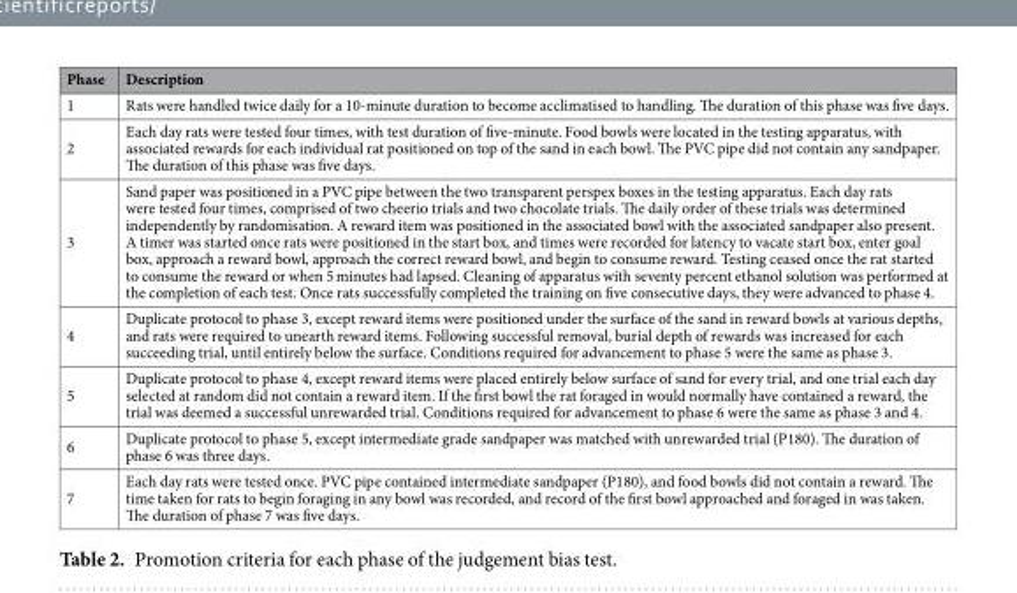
<table><thead><tr><td>Phase</td><td>Description</td></tr></thead><tbody><tr><td>1</td><td>Rats were handled twice daily for a 10-minute duration to become acclimatised to handling. The duration of this phase was five days.</td></tr><tr><td>2</td><td>Each day rats were tested four times, with test duration of five-minute. Food bowls were located in the testing apparatus, with associated rewards for each individual rat positioned on top of the sand in each bowl. The PVC pipe did not contain any sandpaper. The duration of this phase was five days.</td></tr><tr><td>3</td><td>Sand paper was positioned in a PVC pipe between the two transparent perspex boxes in the testing apparatus. Each day rats were tested four times, comprised of two cheerio trials and two chocolate trials. The daily order of these trials was determined independently by randomisation. A reward item was positioned in the associated bowl with the associated sandpaper also present. A timer was started once rats were positioned in the start box, and times were recorded for latency to vacate start box, enter goal box, approach a reward bowl, approach the correct reward bowl, and begin to consume reward. Testing ceased once the rat started to consume the reward or when 5 minutes had lapsed. Cleaning of apparatus with seventy percent ethanol solution was performed at the completion of each test. Once rats successfully completed the training on five consecutive days, they were advanced to phase 4.</td></tr><tr><td>4</td><td>Duplicate protocol to phase 3, except reward items were positioned under the surface of the sand in reward bowls at various depths, and rats were required to unearth reward items. Following successful removal, burial depth of rewards was increased for each succeeding trial, until entirely below the surface. Conditions required for advancement to phase 5 were the same as phase 3.</td></tr><tr><td>5</td><td>Duplicate protocol to phase 4, except reward items were placed entirely below surface of sand for every trial, and one trial each day selected at random did not contain a reward item. If the first bowl the rat foraged in would normally have contained a reward, the trial was deemed a successful unrewarded trial. Conditions required for advancement to phase 6 were the same as phase 3 and 4.</td></tr><tr><td>6</td><td>Duplicate protocol to phase 5, except intermediate grade sandpaper was matched with unrewarded trial (P180). The duration of phase 6 was three days.</td></tr><tr><td>7</td><td>Each day rats were tested once. PVC pipe contained intermediate sandpaper (P180), and food bowls did not contain a reward. The time taken for rats to begin foraging in any bowl was recorded, and record of the first bowl approached and foraged in was taken. The duration of phase 7 was five days.</td></tr></tbody></table>